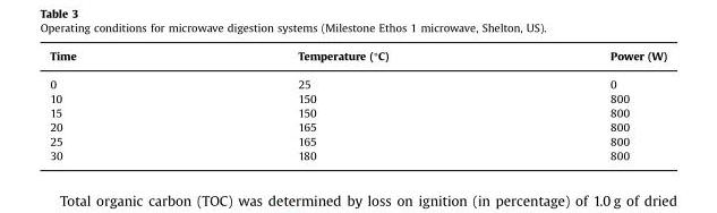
<table><thead><tr><td>Time</td><td>Temperature (°C)</td><td>Power (W)</td></tr></thead><tbody><tr><td>0</td><td>25</td><td>0</td></tr><tr><td>10</td><td>150</td><td>800</td></tr><tr><td>15</td><td>150</td><td>800</td></tr><tr><td>20</td><td>165</td><td>800</td></tr><tr><td>25</td><td>165</td><td>800</td></tr><tr><td>30</td><td>180</td><td>800</td></tr></tbody></table>